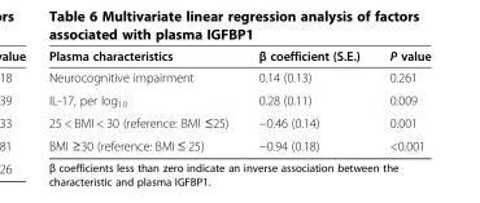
<table><thead><tr><td>Plasma characteristics</td><td>β coefficient (S.E.)</td><td>P value</td></tr></thead><tbody><tr><td>Neurocognitive impairment</td><td>0.14 (0.13)</td><td>0.261</td></tr><tr><td>IL-17, per log<sub>10</sub></td><td>0.28 (0.11)</td><td>0.009</td></tr><tr><td>25 &lt; BMI &lt; 30 (reference: BMI ≤25)</td><td>−0.46 (0.14)</td><td>0.001</td></tr><tr><td>BMI ≥30 (reference: BMI ≤ 25)</td><td>−0.94 (0.18)</td><td>&lt;0.001</td></tr></tbody></table>